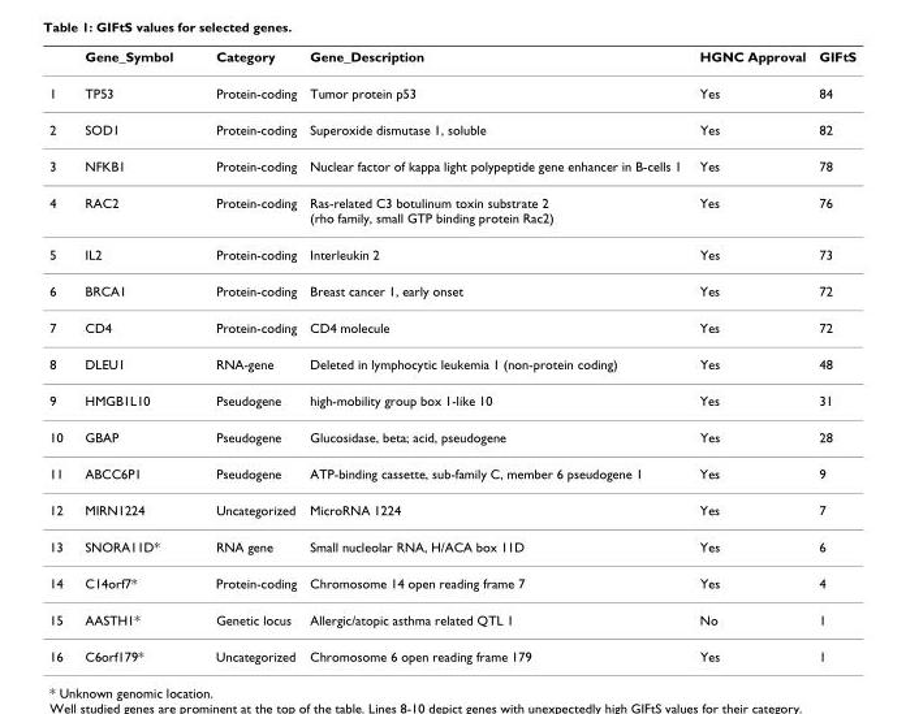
<table><thead><tr><td></td><td>Gene_Symbol</td><td>Category</td><td>Gene_Description</td><td>HGNC Approval</td><td>GIFtS</td></tr></thead><tbody><tr><td>1</td><td>TP53</td><td>Protein-coding</td><td>Tumor protein p53</td><td>Yes</td><td>84</td></tr><tr><td>2</td><td>SOD1</td><td>Protein-coding</td><td>Superoxide dismutase 1, soluble</td><td>Yes</td><td>82</td></tr><tr><td>3</td><td>NFKB1</td><td>Protein-coding</td><td>Nuclear factor of kappa light polypeptide gene enhancer in B-cells 1</td><td>Yes</td><td>78</td></tr><tr><td>4</td><td>RAC2</td><td>Protein-coding</td><td>Ras-related C3 botulinum toxin substrate 2 (rho family, small GTP binding protein Rac2)</td><td>Yes</td><td>76</td></tr><tr><td>5</td><td>IL2</td><td>Protein-coding</td><td>Interleukin 2</td><td>Yes</td><td>73</td></tr><tr><td>6</td><td>BRCA1</td><td>Protein-coding</td><td>Breast cancer 1, early onset</td><td>Yes</td><td>72</td></tr><tr><td>7</td><td>CD4</td><td>Protein-coding</td><td>CD4 molecule</td><td>Yes</td><td>72</td></tr><tr><td>8</td><td>DLEU1</td><td>RNA-gene</td><td>Deleted in lymphocytic leukemia 1 (non-protein coding)</td><td>Yes</td><td>48</td></tr><tr><td>9</td><td>HMGB1L10</td><td>Pseudogene</td><td>high-mobility group box 1-like 10</td><td>Yes</td><td>31</td></tr><tr><td>10</td><td>GBAP</td><td>Pseudogene</td><td>Glucosidase, beta; acid, pseudogene</td><td>Yes</td><td>28</td></tr><tr><td>11</td><td>ABCC6P1</td><td>Pseudogene</td><td>ATP-binding cassette, sub-family C, member 6 pseudogene 1</td><td>Yes</td><td>9</td></tr><tr><td>12</td><td>MIRN1224</td><td>Uncategorized</td><td>MicroRNA 1224</td><td>Yes</td><td>7</td></tr><tr><td>13</td><td>SNORA11D*</td><td>RNA gene</td><td>Small nucleolar RNA, H/ACA box 11D</td><td>Yes</td><td>6</td></tr><tr><td>14</td><td>C14orf7*</td><td>Protein-coding</td><td>Chromosome 14 open reading frame 7</td><td>Yes</td><td>4</td></tr><tr><td>15</td><td>AASTH1*</td><td>Genetic locus</td><td>Allergic/atopic asthma related QTL 1</td><td>No</td><td>1</td></tr><tr><td>16</td><td>C6orf179*</td><td>Uncategorized</td><td>Chromosome 6 open reading frame 179</td><td>Yes</td><td>1</td></tr></tbody></table>